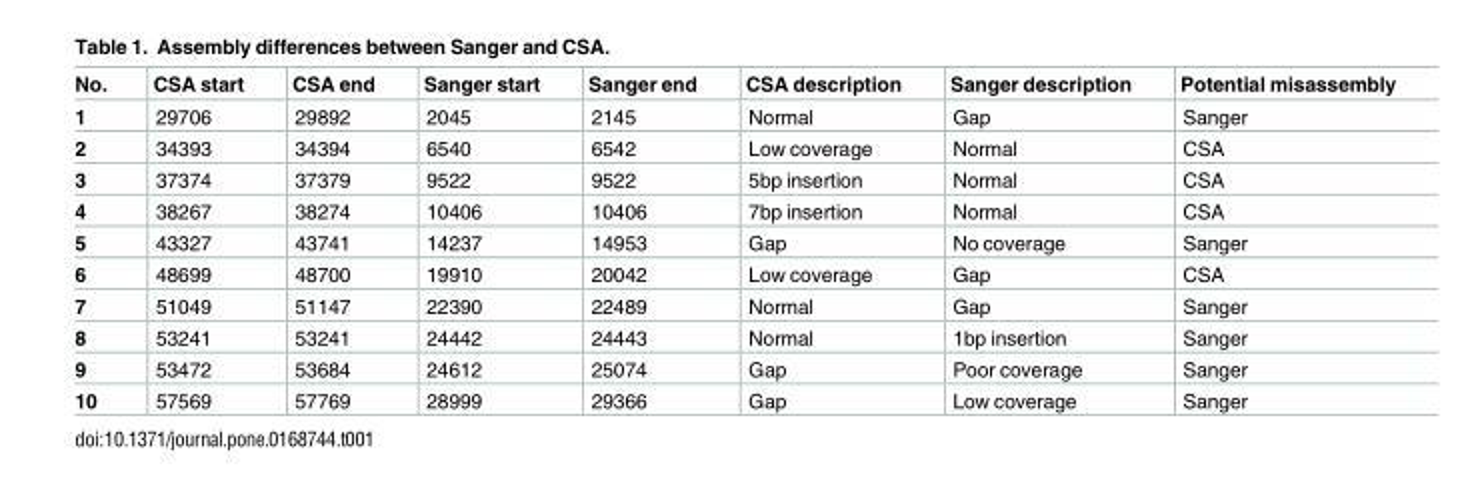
<table><thead><tr><td>No.</td><td>CSA start</td><td>CSA end</td><td>Sanger start</td><td>Sanger end</td><td>CSA description</td><td>Sanger description</td><td>Potential misassembly</td></tr></thead><tbody><tr><td>1</td><td>29706</td><td>29892</td><td>2045</td><td>2145</td><td>Normal</td><td>Gap</td><td>Sanger</td></tr><tr><td>2</td><td>34393</td><td>34394</td><td>6540</td><td>6542</td><td>Low coverage</td><td>Normal</td><td>CSA</td></tr><tr><td>3</td><td>37374</td><td>37379</td><td>9522</td><td>9522</td><td>5bp insertion</td><td>Normal</td><td>CSA</td></tr><tr><td>4</td><td>38267</td><td>38274</td><td>10406</td><td>10406</td><td>7bp insertion</td><td>Normal</td><td>CSA</td></tr><tr><td>5</td><td>43327</td><td>43741</td><td>14237</td><td>14953</td><td>Gap</td><td>No coverage</td><td>Sanger</td></tr><tr><td>6</td><td>48699</td><td>48700</td><td>19910</td><td>20042</td><td>Low coverage</td><td>Gap</td><td>CSA</td></tr><tr><td>7</td><td>51049</td><td>51147</td><td>22390</td><td>22489</td><td>Normal</td><td>Gap</td><td>Sanger</td></tr><tr><td>8</td><td>53241</td><td>53241</td><td>24442</td><td>24443</td><td>Normal</td><td>1bp insertion</td><td>Sanger</td></tr><tr><td>9</td><td>53472</td><td>53684</td><td>24612</td><td>25074</td><td>Gap</td><td>Poor coverage</td><td>Sanger</td></tr><tr><td>10</td><td>57569</td><td>57769</td><td>28999</td><td>29366</td><td>Gap</td><td>Low coverage</td><td>Sanger</td></tr></tbody></table>